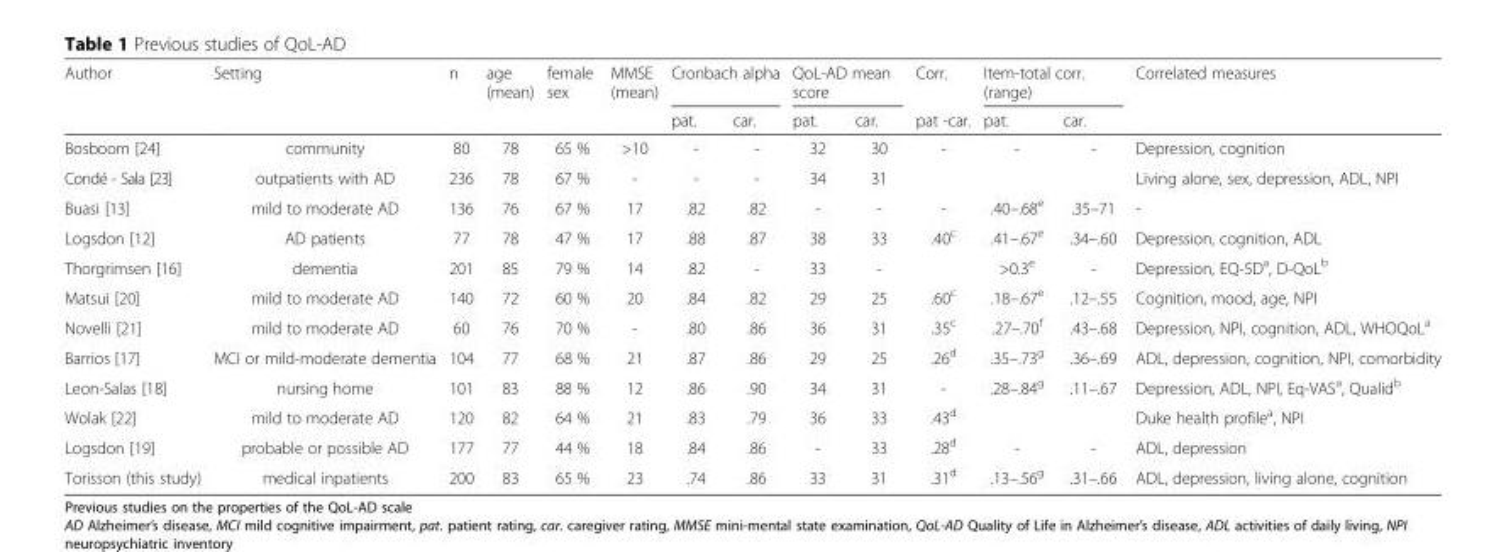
<table><thead><tr><td rowspan="2">Author</td><td rowspan="2">Setting</td><td rowspan="2">n</td><td rowspan="2">age (mean)</td><td rowspan="2">female sex</td><td rowspan="2">MMSE (mean)</td><td colspan="2">Cronbach alpha</td><td colspan="2">QoL-AD mean score</td><td rowspan="2">Corr. pat -car.</td><td colspan="2">Item-total corr. (range)</td><td rowspan="2">Correlated measures</td></tr><tr><td>pat.</td><td>car.</td><td>pat.</td><td>car.</td><td>pat.</td><td>car.</td></tr></thead><tbody><tr><td>Bosboom [24]</td><td>community</td><td>80</td><td>78</td><td>65 %</td><td>&gt;10</td><td>-</td><td>-</td><td>32</td><td>30</td><td>-</td><td>-</td><td>-</td><td>Depression, cognition</td></tr><tr><td>Condé - Sala [23]</td><td>outpatients with AD</td><td>236</td><td>78</td><td>67 %</td><td>-</td><td>-</td><td>-</td><td>34</td><td>31</td><td></td><td></td><td></td><td>Living alone, sex, depression, ADL, NPI</td></tr><tr><td>Buasi [13]</td><td>mild to moderate AD</td><td>136</td><td>76</td><td>67 %</td><td>17</td><td>.82</td><td>.82</td><td>-</td><td>-</td><td>-</td><td>.40–.68<sup>e</sup></td><td>.35–71</td><td>-</td></tr><tr><td>Logsdon [12]</td><td>AD patients</td><td>77</td><td>78</td><td>47 %</td><td>17</td><td>.88</td><td>.87</td><td>38</td><td>33</td><td>.40<sup>c</sup></td><td>.41–.67<sup>e</sup></td><td>.34–.60</td><td>Depression, cognition, ADL</td></tr><tr><td>Thorgrimsen [16]</td><td>dementia</td><td>201</td><td>85</td><td>79 %</td><td>14</td><td>.82</td><td>-</td><td>33</td><td>-</td><td></td><td>&gt;0.3<sup>e</sup></td><td>-</td><td>Depression, EQ-5D<sup>a</sup>, D-QoL<sup>b</sup></td></tr><tr><td>Matsui [20]</td><td>mild to moderate AD</td><td>140</td><td>72</td><td>60 %</td><td>20</td><td>.84</td><td>.82</td><td>29</td><td>25</td><td>.60<sup>c</sup></td><td>.18–.67<sup>e</sup></td><td>.12–.55</td><td>Cognition, mood, age, NPI</td></tr><tr><td>Novelli [21]</td><td>mild to moderate AD</td><td>60</td><td>76</td><td>70 %</td><td>-</td><td>.80</td><td>.86</td><td>36</td><td>31</td><td>.35<sup>c</sup></td><td>.27–.70<sup>f</sup></td><td>.43–.68</td><td>Depression, NPI, cognition, ADL, WHOQoL<sup>a</sup></td></tr><tr><td>Barrios [17]</td><td>MCI or mild-moderate dementia</td><td>104</td><td>77</td><td>68 %</td><td>21</td><td>.87</td><td>.86</td><td>29</td><td>25</td><td>.26<sup>d</sup></td><td>.35–.73<sup>g</sup></td><td>.36–.69</td><td>ADL, depression, cognition, NPI, comorbidity</td></tr><tr><td>Leon-Salas [18]</td><td>nursing home</td><td>101</td><td>83</td><td>88 %</td><td>12</td><td>.86</td><td>.90</td><td>34</td><td>31</td><td>-</td><td>.28–.84<sup>g</sup></td><td>.11–.67</td><td>Depression, ADL, NPI, Eq-VAS<sup>a</sup>, Qualid<sup>b</sup></td></tr><tr><td>Wolak [22]</td><td>mild to moderate AD</td><td>120</td><td>82</td><td>64 %</td><td>21</td><td>.83</td><td>.79</td><td>36</td><td>33</td><td>.43<sup>d</sup></td><td></td><td></td><td>Duke health profile<sup>a</sup>, NPI</td></tr><tr><td>Logsdon [19]</td><td>probable or possible AD</td><td>177</td><td>77</td><td>44 %</td><td>18</td><td>.84</td><td>.86</td><td>-</td><td>33</td><td>.28<sup>d</sup></td><td>-</td><td>-</td><td>ADL, depression</td></tr><tr><td>Torisson (this study)</td><td>medical inpatients</td><td>200</td><td>83</td><td>65 %</td><td>23</td><td>.74</td><td>.86</td><td>33</td><td>31</td><td>.31<sup>d</sup></td><td>.13–.56<sup>g</sup></td><td>.31–.66</td><td>ADL, depression, living alone, cognition</td></tr></tbody></table>